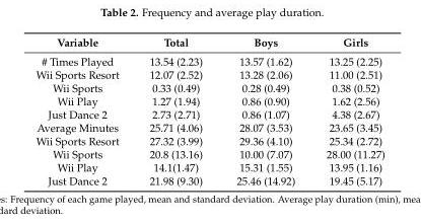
<table><thead><tr><td>Variable</td><td>Total</td><td>Boys</td><td>Girls</td></tr></thead><tbody><tr><td># Times Played</td><td>13.54 (2.23)</td><td>13.57 (1.62)</td><td>13.25 (2.25)</td></tr><tr><td>Wii Sports Resort</td><td>12.07 (2.52)</td><td>13.28 (2.06)</td><td>11.00 (2.51)</td></tr><tr><td>Wii Sports</td><td>0.33 (0.49)</td><td>0.28 (0.49)</td><td>0.38 (0.52)</td></tr><tr><td>Wii Play</td><td>1.27 (1.94)</td><td>0.86 (0.90)</td><td>1.62 (2.56)</td></tr><tr><td>Just Dance 2</td><td>2.73 (2.71)</td><td>0.86 (1.07)</td><td>4.38 (2.67)</td></tr><tr><td>Average Minutes</td><td>25.71 (4.06)</td><td>28.07 (3.53)</td><td>23.65 (3.45)</td></tr><tr><td>Wii Sports Resort</td><td>27.32 (3.99)</td><td>29.36 (4.10)</td><td>25.34 (2.72)</td></tr><tr><td>Wii Sports</td><td>20.8 (13.16)</td><td>10.00 (7.07)</td><td>28.00 (11.27)</td></tr><tr><td>Wii Play</td><td>14.1(1.47)</td><td>15.31 (1.55)</td><td>13.95 (1.16)</td></tr><tr><td>Just Dance 2</td><td>21.98 (9.30)</td><td>25.46 (14.92)</td><td>19.45 (5.17)</td></tr></tbody></table>